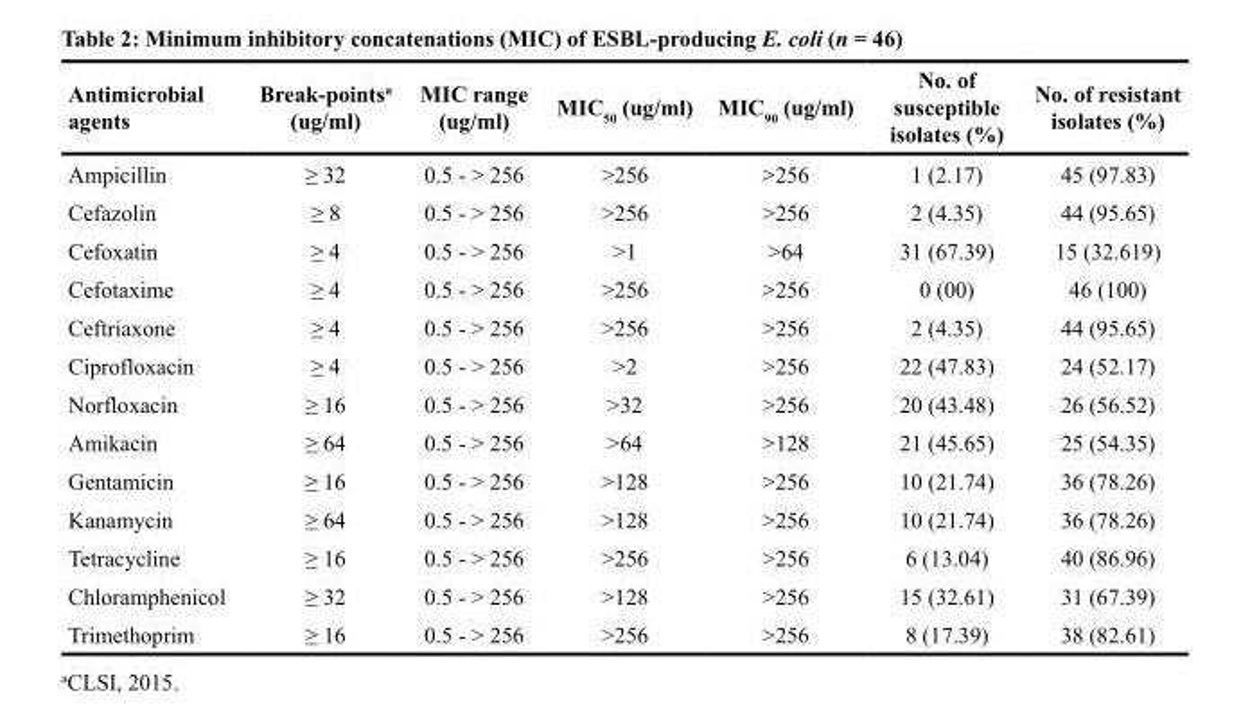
<table><thead><tr><td>Antimicrobial agents</td><td>Break-points<sup>a</sup> (ug/ml)</td><td>MIC range (ug/ml)</td><td>MIC<sub>50</sub> (ug/ml)</td><td>MIC<sub>90</sub> (ug/ml)</td><td>No. of susceptible isolates (%)</td><td>No. of resistant isolates (%)</td></tr></thead><tbody><tr><td>Ampicillin</td><td>≥ 32</td><td>0.5 - &gt; 256</td><td>&gt;256</td><td>&gt;256</td><td>1 (2.17)</td><td>45 (97.83)</td></tr><tr><td>Cefazolin</td><td>≥ 8</td><td>0.5 - &gt; 256</td><td>&gt;256</td><td>&gt;256</td><td>2 (4.35)</td><td>44 (95.65)</td></tr><tr><td>Cefoxatin</td><td>≥ 4</td><td>0.5 - &gt; 256</td><td>&gt;1</td><td>&gt;64</td><td>31 (67.39)</td><td>15 (32.619)</td></tr><tr><td>Cefotaxime</td><td>≥ 4</td><td>0.5 - &gt; 256</td><td>&gt;256</td><td>&gt;256</td><td>0 (00)</td><td>46 (100)</td></tr><tr><td>Ceftriaxone</td><td>≥ 4</td><td>0.5 - &gt; 256</td><td>&gt;256</td><td>&gt;256</td><td>2 (4.35)</td><td>44 (95.65)</td></tr><tr><td>Ciprofloxacin</td><td>≥ 4</td><td>0.5 - &gt; 256</td><td>&gt;2</td><td>&gt;256</td><td>22 (47.83)</td><td>24 (52.17)</td></tr><tr><td>Norfloxacin</td><td>≥ 16</td><td>0.5 - &gt; 256</td><td>&gt;32</td><td>&gt;256</td><td>20 (43.48)</td><td>26 (56.52)</td></tr><tr><td>Amikacin</td><td>≥ 64</td><td>0.5 - &gt; 256</td><td>&gt;64</td><td>&gt;128</td><td>21 (45.65)</td><td>25 (54.35)</td></tr><tr><td>Gentamicin</td><td>≥ 16</td><td>0.5 - &gt; 256</td><td>&gt;128</td><td>&gt;256</td><td>10 (21.74)</td><td>36 (78.26)</td></tr><tr><td>Kanamycin</td><td>≥ 64</td><td>0.5 - &gt; 256</td><td>&gt;128</td><td>&gt;256</td><td>10 (21.74)</td><td>36 (78.26)</td></tr><tr><td>Tetracycline</td><td>≥ 16</td><td>0.5 - &gt; 256</td><td>&gt;256</td><td>&gt;256</td><td>6 (13.04)</td><td>40 (86.96)</td></tr><tr><td>Chloramphenicol</td><td>≥ 32</td><td>0.5 - &gt; 256</td><td>&gt;128</td><td>&gt;256</td><td>15 (32.61)</td><td>31 (67.39)</td></tr><tr><td>Trimethoprim</td><td>≥ 16</td><td>0.5 - &gt; 256</td><td>&gt;256</td><td>&gt;256</td><td>8 (17.39)</td><td>38 (82.61)</td></tr></tbody></table>